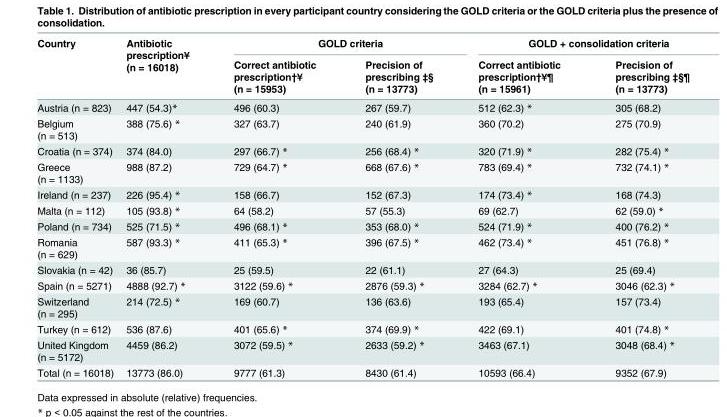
<table><thead><tr><td rowspan="2">Country</td><td rowspan="2">Antibiotic prescription¥ (n = 16018)</td><td colspan="2">GOLD criteria</td><td colspan="2">GOLD + consolidation criteria</td></tr><tr><td>Correct antibiotic prescription†¥ (n = 15953)</td><td>Precision of prescribing ‡§ (n = 13773)</td><td>Correct antibiotic prescription†¥¶ (n = 15961)</td><td>Precision of prescribing ‡§¶ (n = 13773)</td></tr></thead><tbody><tr><td>Austria (n = 823)</td><td>447 (54.3)*</td><td>496 (60.3)</td><td>267 (59.7)</td><td>512 (62.3) *</td><td>305 (68.2)</td></tr><tr><td>Belgium (n = 513)</td><td>388 (75.6) *</td><td>327 (63.7)</td><td>240 (61.9)</td><td>360 (70.2)</td><td>275 (70.9)</td></tr><tr><td>Croatia (n = 374)</td><td>374 (84.0)</td><td>297 (66.7) *</td><td>256 (68.4) *</td><td>320 (71.9) *</td><td>282 (75.4) *</td></tr><tr><td>Greece (n = 1133)</td><td>988 (87.2)</td><td>729 (64.7) *</td><td>668 (67.6) *</td><td>783 (69.4) *</td><td>732 (74.1) *</td></tr><tr><td>Ireland (n = 237)</td><td>226 (95.4) *</td><td>158 (66.7)</td><td>152 (67.3)</td><td>174 (73.4) *</td><td>168 (74.3)</td></tr><tr><td>Malta (n = 112)</td><td>105 (93.8) *</td><td>64 (58.2)</td><td>57 (55.3)</td><td>69 (62.7)</td><td>62 (59.0) *</td></tr><tr><td>Poland (n = 734)</td><td>525 (71.5) *</td><td>496 (68.1) *</td><td>353 (68.0) *</td><td>524 (71.9) *</td><td>400 (76.2) *</td></tr><tr><td>Romania (n = 629)</td><td>587 (93.3) *</td><td>411 (65.3) *</td><td>396 (67.5) *</td><td>462 (73.4) *</td><td>451 (76.8) *</td></tr><tr><td>Slovakia (n = 42)</td><td>36 (85.7)</td><td>25 (59.5)</td><td>22 (61.1)</td><td>27 (64.3)</td><td>25 (69.4)</td></tr><tr><td>Spain (n = 5271)</td><td>4888 (92.7) *</td><td>3122 (59.6) *</td><td>2876 (59.3) *</td><td>3284 (62.7) *</td><td>3046 (62.3) *</td></tr><tr><td>Switzerland (n = 295)</td><td>214 (72.5) *</td><td>169 (60.7)</td><td>136 (63.6)</td><td>193 (65.4)</td><td>157 (73.4)</td></tr><tr><td>Turkey (n = 612)</td><td>536 (87.6)</td><td>401 (65.6) *</td><td>374 (69.9) *</td><td>422 (69.1)</td><td>401 (74.8) *</td></tr><tr><td>United Kingdom (n = 5172)</td><td>4459 (86.2)</td><td>3072 (59.5) *</td><td>2633 (59.2) *</td><td>3463 (67.1)</td><td>3048 (68.4) *</td></tr><tr><td>Total (n = 16018)</td><td>13773 (86.0)</td><td>9777 (61.3)</td><td>8430 (61.4)</td><td>10593 (66.4)</td><td>9352 (67.9)</td></tr></tbody></table>